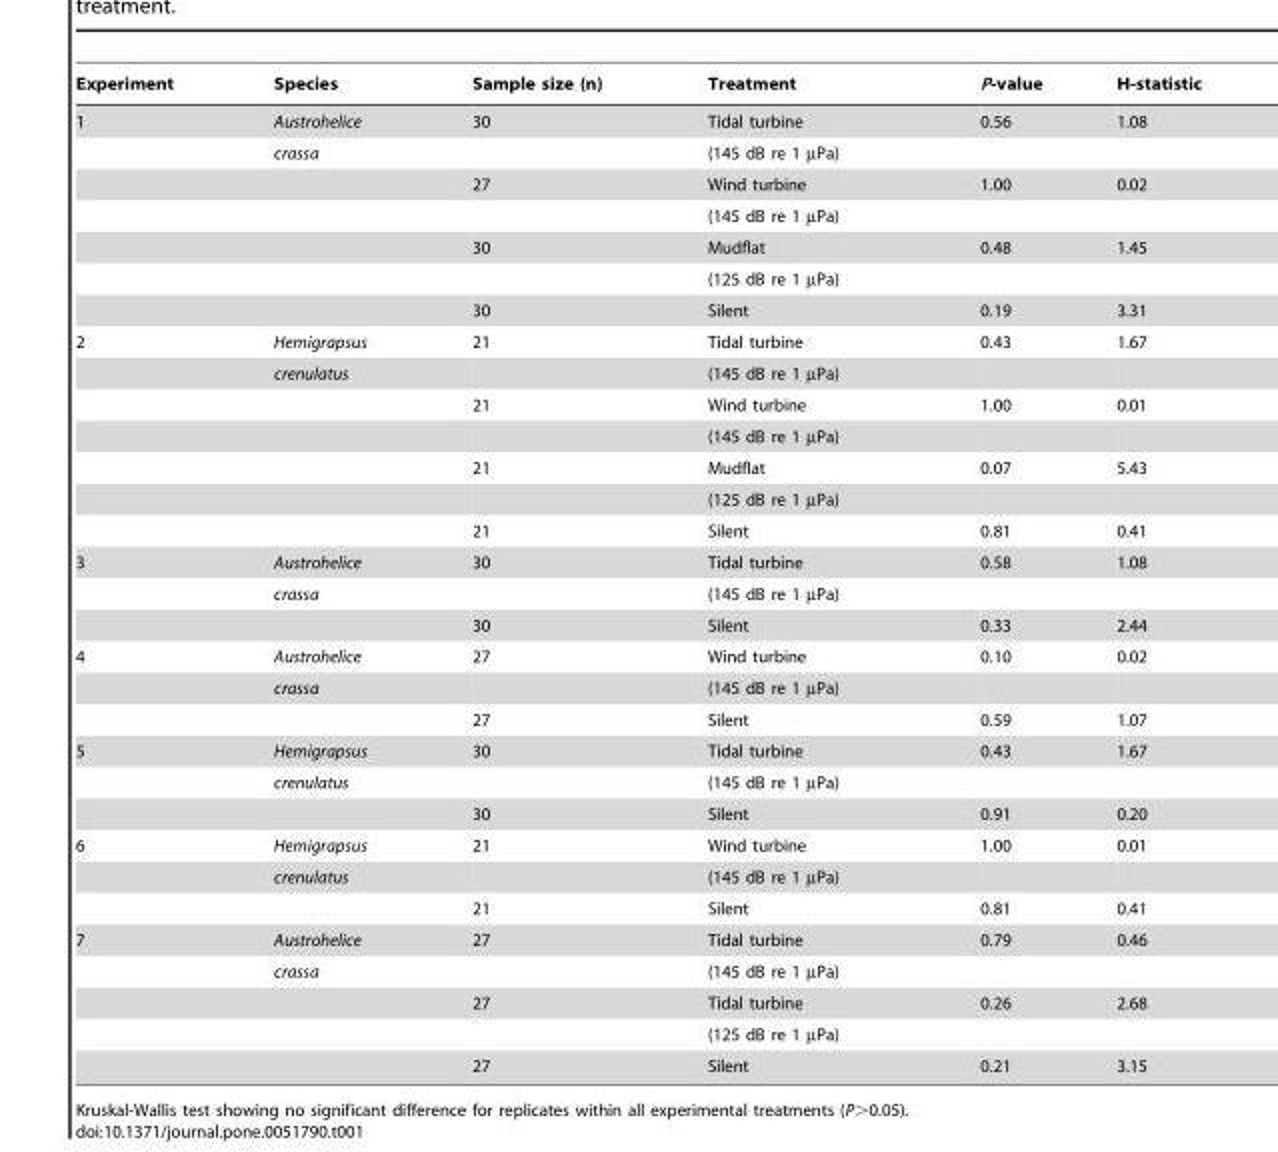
<table><thead><tr><td>Experiment</td><td>Species</td><td>Sample size (n)</td><td>Treatment</td><td>P-value</td><td>H-statistic</td></tr></thead><tbody><tr><td rowspan="7">1</td><td>Austrohelice</td><td>30</td><td>Tidal turbine</td><td>0.56</td><td>1.08</td></tr><tr><td>crassa</td><td></td><td>(145 dB re 1 µPa)</td><td></td><td></td></tr><tr><td></td><td>27</td><td>Wind turbine</td><td>1.00</td><td>0.02</td></tr><tr><td></td><td></td><td>(145 dB re 1 µPa)</td><td></td><td></td></tr><tr><td></td><td>30</td><td>Mudflat</td><td>0.48</td><td>1.45</td></tr><tr><td></td><td></td><td>(125 dB re 1 µPa)</td><td></td><td></td></tr><tr><td></td><td>30</td><td>Silent</td><td>0.19</td><td>3.31</td></tr><tr><td rowspan="7">2</td><td>Hemigrapsus</td><td>21</td><td>Tidal turbine</td><td>0.43</td><td>1.67</td></tr><tr><td>crenulatus</td><td></td><td>(145 dB re 1 µPa)</td><td></td><td></td></tr><tr><td></td><td>21</td><td>Wind turbine</td><td>1.00</td><td>0.01</td></tr><tr><td></td><td></td><td>(145 dB re 1 µPa)</td><td></td><td></td></tr><tr><td></td><td>21</td><td>Mudflat</td><td>0.07</td><td>5.43</td></tr><tr><td></td><td></td><td>(125 dB re 1 µPa)</td><td></td><td></td></tr><tr><td></td><td>21</td><td>Silent</td><td>0.81</td><td>0.41</td></tr><tr><td rowspan="3">3</td><td>Austrohelice</td><td>30</td><td>Tidal turbine</td><td>0.58</td><td>1.08</td></tr><tr><td>crassa</td><td></td><td>(145 dB re 1 µPa)</td><td></td><td></td></tr><tr><td></td><td>30</td><td>Silent</td><td>0.33</td><td>2.44</td></tr><tr><td rowspan="3">4</td><td>Austrohelice</td><td>27</td><td>Wind turbine</td><td>0.10</td><td>0.02</td></tr><tr><td>crassa</td><td></td><td>(145 dB re 1 µPa)</td><td></td><td></td></tr><tr><td></td><td>27</td><td>Silent</td><td>0.59</td><td>1.07</td></tr><tr><td rowspan="3">5</td><td>Hemigrapsus</td><td>30</td><td>Tidal turbine</td><td>0.43</td><td>1.67</td></tr><tr><td>crenulatus</td><td></td><td>(145 dB re 1 µPa)</td><td></td><td></td></tr><tr><td></td><td>30</td><td>Silent</td><td>0.91</td><td>0.20</td></tr><tr><td rowspan="3">6</td><td>Hemigrapsus</td><td>21</td><td>Wind turbine</td><td>1.00</td><td>0.01</td></tr><tr><td>crenulatus</td><td></td><td>(145 dB re 1 µPa)</td><td></td><td></td></tr><tr><td></td><td>21</td><td>Silent</td><td>0.81</td><td>0.41</td></tr><tr><td rowspan="5">7</td><td>Austrohelice</td><td>27</td><td>Tidal turbine</td><td>0.79</td><td>0.46</td></tr><tr><td>crassa</td><td></td><td>(145 dB re 1 µPa)</td><td></td><td></td></tr><tr><td></td><td>27</td><td>Tidal turbine</td><td>0.26</td><td>2.68</td></tr><tr><td></td><td></td><td>(125 dB re 1 µPa)</td><td></td><td></td></tr><tr><td></td><td>27</td><td>Silent</td><td>0.21</td><td>3.15</td></tr></tbody></table>